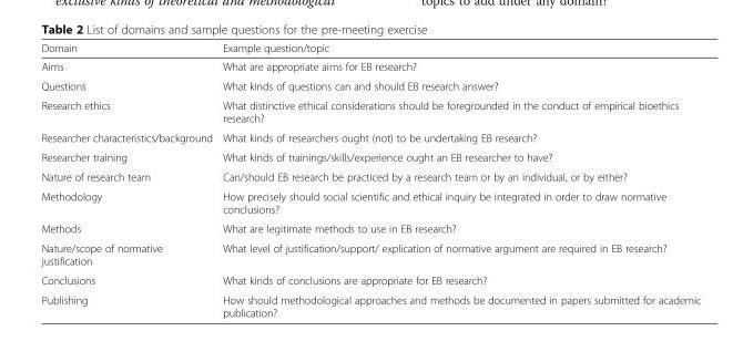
<table><thead><tr><td>Domain</td><td>Example question/topic</td></tr></thead><tbody><tr><td>Aims</td><td>What are appropriate aims for EB research?</td></tr><tr><td>Questions</td><td>What kinds of questions can and should EB research answer?</td></tr><tr><td>Research ethics</td><td>What distinctive ethical considerations should be foregrounded in the conduct of empirical bioethics research?</td></tr><tr><td>Researcher characteristics/background</td><td>What kinds of researchers ought (not) to be undertaking EB research?</td></tr><tr><td>Researcher training</td><td>What kinds of trainings/skills/experience ought an EB researcher to have?</td></tr><tr><td>Nature of research team</td><td>Can/should EB research be practiced by a research team or by an individual, or by either?</td></tr><tr><td>Methodology</td><td>How precisely should social scientific and ethical inquiry be integrated in order to draw normative conclusions?</td></tr><tr><td>Methods</td><td>What are legitimate methods to use in EB research?</td></tr><tr><td>Nature/scope of normative justification</td><td>What level of justification/support/ explication of normative argument are required in EB research?</td></tr><tr><td>Conclusions</td><td>What kinds of conclusions are appropriate for EB research?</td></tr><tr><td>Publishing</td><td>How should methodological approaches and methods be documented in papers submitted for academic publication?</td></tr></tbody></table>